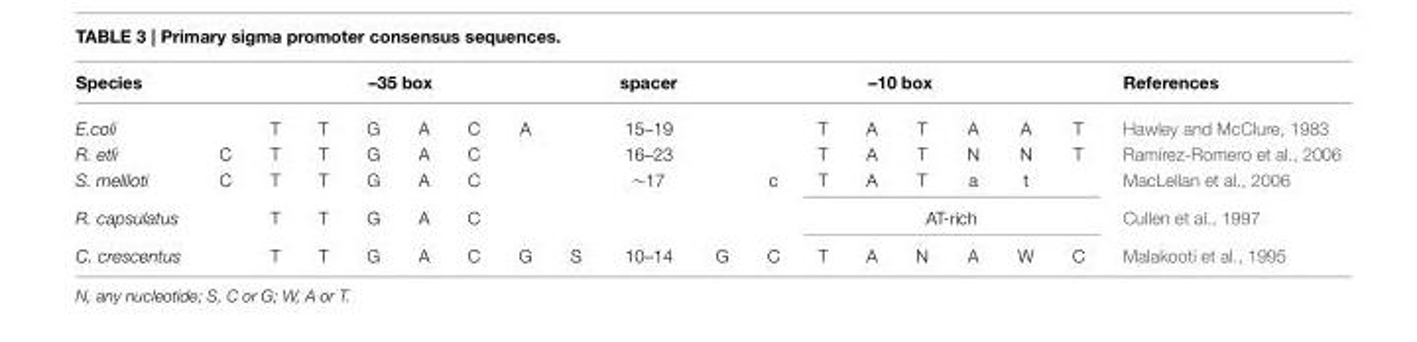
<table><thead><tr><td rowspan="2">Species E.coli</td><td colspan="8">–35 box</td><td rowspan="2">spacer 15–19</td><td colspan="8">–10 box</td><td rowspan="2">References Hawley and McClure, 1983</td></tr><tr><td></td><td>T</td><td>T</td><td>G</td><td>A</td><td>C</td><td>A</td><td></td><td></td><td></td><td>T</td><td>A</td><td>T</td><td>A</td><td>A</td><td>T</td></tr></thead><tbody><tr><td>R. etli</td><td>C</td><td>T</td><td>T</td><td>G</td><td>A</td><td>C</td><td></td><td></td><td>16–23</td><td></td><td></td><td>T</td><td>A</td><td>T</td><td>N</td><td>N</td><td>T</td><td>Ramírez-Romero et al., 2006</td></tr><tr><td>S. meliloti</td><td>C</td><td>T</td><td>T</td><td>G</td><td>A</td><td>C</td><td></td><td></td><td>∼17</td><td></td><td>c</td><td>T</td><td>A</td><td>T</td><td>a</td><td>t</td><td></td><td>MacLellan et al., 2006</td></tr><tr><td>R. capsulatus</td><td></td><td>T</td><td>T</td><td>G</td><td>A</td><td>C</td><td></td><td></td><td></td><td></td><td></td><td colspan="6">AT-rich</td><td>Cullen et al., 1997</td></tr><tr><td>C. crescentus</td><td></td><td>T</td><td>T</td><td>G</td><td>A</td><td>C</td><td>G</td><td>S</td><td>10–14</td><td>G</td><td>C</td><td>T</td><td>A</td><td>N</td><td>A</td><td>W</td><td>C</td><td>Malakooti et al., 1995</td></tr></tbody></table>